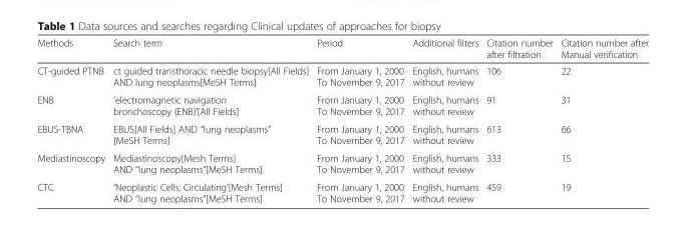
<table><thead><tr><td>Methods</td><td>Search term</td><td>Period</td><td>Additional filters</td><td>Citation number after filtration</td><td>Citation number after Manual verification</td></tr></thead><tbody><tr><td>CT-guided PTNB</td><td>ct guided transthoracic needle biopsy[All Fields] AND lung neoplasms[MeSH Terms]</td><td>From January 1, 2000 To November 9, 2017</td><td>English, humans without review</td><td>106</td><td>22</td></tr><tr><td>ENB</td><td>‘electromagnetic navigation bronchoscopy (ENB)’[All Fields]</td><td>From January 1, 2000 To November 9, 2017</td><td>English, humans without review</td><td>91</td><td>31</td></tr><tr><td>EBUS-TBNA</td><td>EBUS[All Fields] AND “lung neoplasms” [MeSH Terms]</td><td>From January 1, 2000 To November 9, 2017</td><td>English, humans without review</td><td>613</td><td>66</td></tr><tr><td>Mediastinoscopy</td><td>Mediastinoscopy[Mesh Terms] AND “lung neoplasms”[MeSH Terms]</td><td>From January 1, 2000 To November 9, 2017</td><td>English, humans without review</td><td>333</td><td>15</td></tr><tr><td>CTC</td><td>‘Neoplastic Cells, Circulating’[Mesh Terms] AND “lung neoplasms”[MeSH Terms]</td><td>From January 1, 2000 To November 9, 2017</td><td>English, humans without review</td><td>459</td><td>19</td></tr></tbody></table>